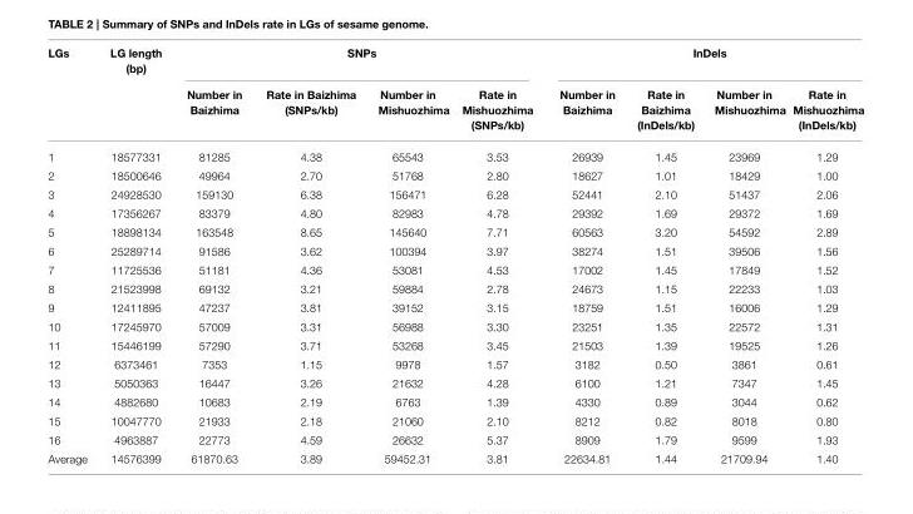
<table><thead><tr><td rowspan="2">LGs</td><td rowspan="2">LG length (bp)</td><td colspan="4">SNPs</td><td colspan="4">InDels</td></tr><tr><td>Number in Baizhima</td><td>Rate in Baizhima (SNPs/kb)</td><td>Number in Mishuozhima</td><td>Rate in Mishuozhima (SNPs/kb)</td><td>Number in Baizhima</td><td>Rate in Baizhima (InDels/kb)</td><td>Number in Mishuozhima</td><td>Rate in Mishuozhima (InDels/kb)</td></tr></thead><tbody><tr><td>1</td><td>18577331</td><td>81285</td><td>4.38</td><td>65543</td><td>3.53</td><td>26939</td><td>1.45</td><td>23969</td><td>1.29</td></tr><tr><td>2</td><td>18500646</td><td>49964</td><td>2.70</td><td>51768</td><td>2.80</td><td>18627</td><td>1.01</td><td>18429</td><td>1.00</td></tr><tr><td>3</td><td>24928530</td><td>159130</td><td>6.38</td><td>156471</td><td>6.28</td><td>52441</td><td>2.10</td><td>51437</td><td>2.06</td></tr><tr><td>4</td><td>17356267</td><td>83379</td><td>4.80</td><td>82983</td><td>4.78</td><td>29392</td><td>1.69</td><td>29372</td><td>1.69</td></tr><tr><td>5</td><td>18898134</td><td>163548</td><td>8.65</td><td>145640</td><td>7.71</td><td>60563</td><td>3.20</td><td>54592</td><td>2.89</td></tr><tr><td>6</td><td>25289714</td><td>91586</td><td>3.62</td><td>100394</td><td>3.97</td><td>38274</td><td>1.51</td><td>39506</td><td>1.56</td></tr><tr><td>7</td><td>11725536</td><td>51181</td><td>4.36</td><td>53081</td><td>4.53</td><td>17002</td><td>1.45</td><td>17849</td><td>1.52</td></tr><tr><td>8</td><td>21523998</td><td>69132</td><td>3.21</td><td>59884</td><td>2.78</td><td>24673</td><td>1.15</td><td>22233</td><td>1.03</td></tr><tr><td>9</td><td>12411895</td><td>47237</td><td>3.81</td><td>39152</td><td>3.15</td><td>18759</td><td>1.51</td><td>16006</td><td>1.29</td></tr><tr><td>10</td><td>17245970</td><td>57009</td><td>3.31</td><td>56988</td><td>3.30</td><td>23251</td><td>1.35</td><td>22572</td><td>1.31</td></tr><tr><td>11</td><td>15446199</td><td>57290</td><td>3.71</td><td>53268</td><td>3.45</td><td>21503</td><td>1.39</td><td>19525</td><td>1.26</td></tr><tr><td>12</td><td>6373461</td><td>7353</td><td>1.15</td><td>9978</td><td>1.57</td><td>3182</td><td>0.50</td><td>3861</td><td>0.61</td></tr><tr><td>13</td><td>5050363</td><td>16447</td><td>3.26</td><td>21632</td><td>4.28</td><td>6100</td><td>1.21</td><td>7347</td><td>1.45</td></tr><tr><td>14</td><td>4882680</td><td>10683</td><td>2.19</td><td>6763</td><td>1.39</td><td>4330</td><td>0.89</td><td>3044</td><td>0.62</td></tr><tr><td>15</td><td>10047770</td><td>21933</td><td>2.18</td><td>21060</td><td>2.10</td><td>8212</td><td>0.82</td><td>8018</td><td>0.80</td></tr><tr><td>16</td><td>4963887</td><td>22773</td><td>4.59</td><td>26632</td><td>5.37</td><td>8909</td><td>1.79</td><td>9599</td><td>1.93</td></tr><tr><td>Average</td><td>14576399</td><td>61870.63</td><td>3.89</td><td>59452.31</td><td>3.81</td><td>22634.81</td><td>1.44</td><td>21709.94</td><td>1.40</td></tr></tbody></table>